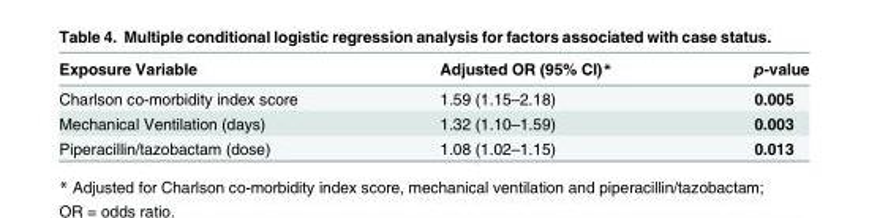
<table><thead><tr><td>Exposure Variable</td><td>Adjusted OR (95% CI)*</td><td>p-value</td></tr></thead><tbody><tr><td>Charlson co-morbidity index score</td><td>1.59 (1.15–2.18)</td><td>0.005</td></tr><tr><td>Mechanical Ventilation (days)</td><td>1.32 (1.10–1.59)</td><td>0.003</td></tr><tr><td>Piperacillin/tazobactam (dose)</td><td>1.08 (1.02–1.15)</td><td>0.013</td></tr></tbody></table>